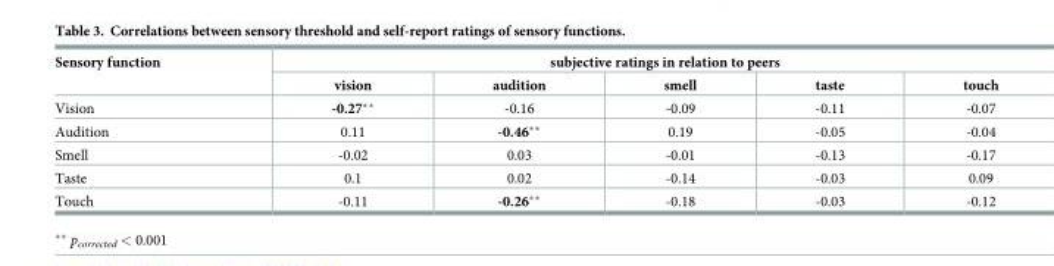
<table><thead><tr><td rowspan="2">Sensory function</td><td colspan="5">subjective ratings in relation to peers</td></tr><tr><td>vision</td><td>audition</td><td>smell</td><td>taste</td><td>touch</td></tr></thead><tbody><tr><td>Vision</td><td>-0.27**</td><td>-0.16</td><td>-0.09</td><td>-0.11</td><td>-0.07</td></tr><tr><td>Audition</td><td>0.11</td><td>-0.46**</td><td>0.19</td><td>-0.05</td><td>-0.04</td></tr><tr><td>Smell</td><td>-0.02</td><td>0.03</td><td>-0.01</td><td>-0.13</td><td>-0.17</td></tr><tr><td>Taste</td><td>0.1</td><td>0.02</td><td>-0.14</td><td>-0.03</td><td>0.09</td></tr><tr><td>Touch</td><td>-0.11</td><td>-0.26**</td><td>-0.18</td><td>-0.03</td><td>-0.12</td></tr></tbody></table>